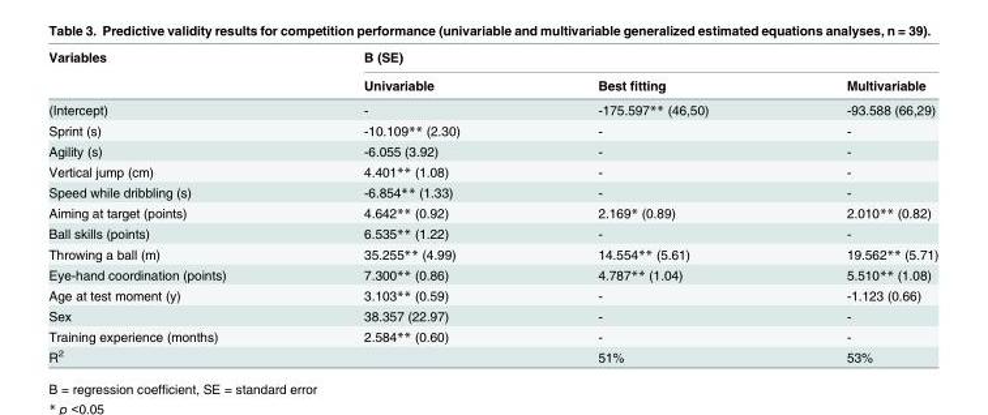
<table><thead><tr><td rowspan="2">Variables</td><td colspan="3">B (SE)</td></tr><tr><td>Univariable</td><td>Best fitting</td><td>Multivariable</td></tr></thead><tbody><tr><td>(Intercept)</td><td>-</td><td>-175.597** (46,50)</td><td>-93.588 (66,29)</td></tr><tr><td>Sprint (s)</td><td>-10.109** (2.30)</td><td>-</td><td>-</td></tr><tr><td>Agility (s)</td><td>-6.055 (3.92)</td><td>-</td><td>-</td></tr><tr><td>Vertical jump (cm)</td><td>4.401** (1.08)</td><td>-</td><td>-</td></tr><tr><td>Speed while dribbling (s)</td><td>-6.854** (1.33)</td><td>-</td><td>-</td></tr><tr><td>Aiming at target (points)</td><td>4.642** (0.92)</td><td>2.169* (0.89)</td><td>2.010** (0.82)</td></tr><tr><td>Ball skills (points)</td><td>6.535** (1.22)</td><td>-</td><td>-</td></tr><tr><td>Throwing a ball (m)</td><td>35.255** (4.99)</td><td>14.554** (5.61)</td><td>19.562** (5.71)</td></tr><tr><td>Eye-hand coordination (points)</td><td>7.300** (0.86)</td><td>4.787** (1.04)</td><td>5.510** (1.08)</td></tr><tr><td>Age at test moment (y)</td><td>3.103** (0.59)</td><td>-</td><td>-1.123 (0.66)</td></tr><tr><td>Sex</td><td>38.357 (22.97)</td><td>-</td><td>-</td></tr><tr><td>Training experience (months)</td><td>2.584** (0.60)</td><td>-</td><td>-</td></tr><tr><td>R<sup>2</sup></td><td></td><td>51%</td><td>53%</td></tr></tbody></table>